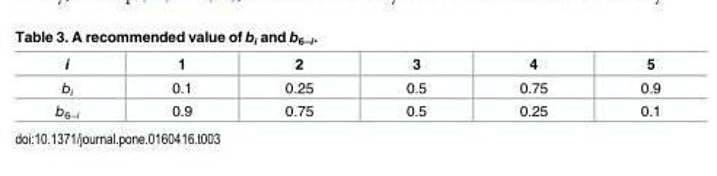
<table><thead><tr><td>i</td><td>1</td><td>2</td><td>3</td><td>4</td><td>5</td></tr></thead><tbody><tr><td>b<sub>i</sub></td><td>0.1</td><td>0.25</td><td>0.5</td><td>0.75</td><td>0.9</td></tr><tr><td>b<sub>6−i</sub></td><td>0.9</td><td>0.75</td><td>0.5</td><td>0.25</td><td>0.1</td></tr></tbody></table>